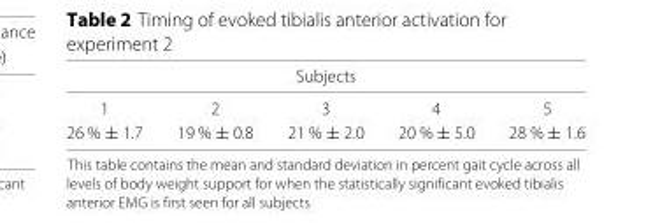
<table><thead><tr><td colspan="5">Subjects</td></tr><tr><td>1</td><td>2</td><td>3</td><td>4</td><td>5</td></tr></thead><tbody><tr><td>26 % ± 1.7</td><td>19 % ± 0.8</td><td>21 % ± 2.0</td><td>20 % ± 5.0</td><td>28 % ± 1.6</td></tr></tbody></table>